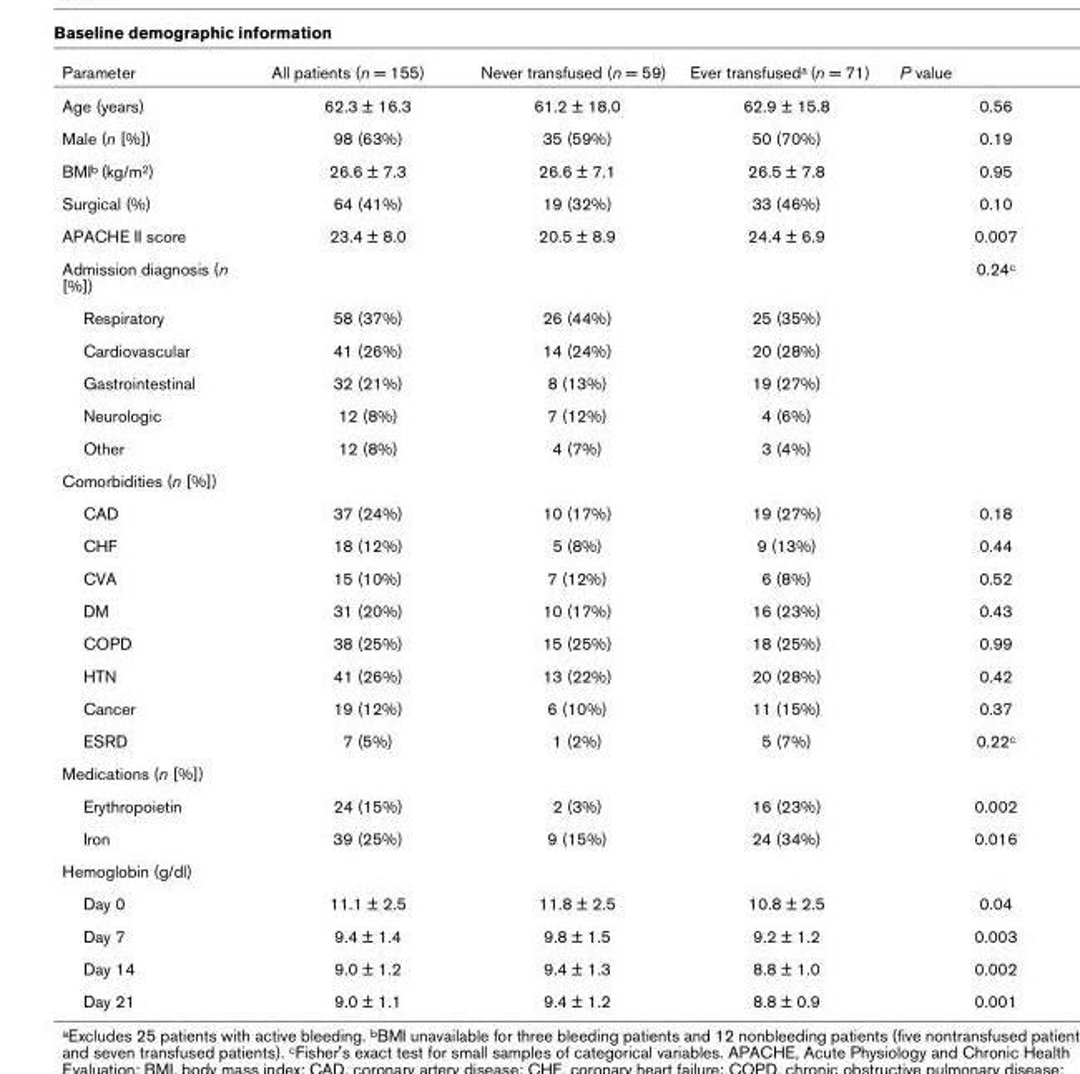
<table><thead><tr><td>Parameter</td><td>All patients (n = 155)</td><td>Never transfused (n = 59)</td><td>Ever transfuseda (n = 71)</td><td>P value</td></tr></thead><tbody><tr><td>Age (years)</td><td>62.3 ± 16.3</td><td>61.2 ± 18.0</td><td>62.9 ± 15.8</td><td>0.56</td></tr><tr><td>Male (n [%])</td><td>98 (63%)</td><td>35 (59%)</td><td>50 (70%)</td><td>0.19</td></tr><tr><td>BMIb (kg/m2)</td><td>26.6 ± 7.3</td><td>26.6 ± 7.1</td><td>26.5 ± 7.8</td><td>0.95</td></tr><tr><td>Surgical (%)</td><td>64 (41%)</td><td>19 (32%)</td><td>33 (46%)</td><td>0.10</td></tr><tr><td>APACHE II score</td><td>23.4 ± 8.0</td><td>20.5 ± 8.9</td><td>24.4 ± 6.9</td><td>0.007</td></tr><tr><td>Admission diagnosis (n [%])</td><td></td><td></td><td></td><td>0.24c</td></tr><tr><td>Respiratory</td><td>58 (37%)</td><td>26 (44%)</td><td>25 (35%)</td><td></td></tr><tr><td>Cardiovascular</td><td>41 (26%)</td><td>14 (24%)</td><td>20 (28%)</td><td></td></tr><tr><td>Gastrointestinal</td><td>32 (21%)</td><td>8 (13%)</td><td>19 (27%)</td><td></td></tr><tr><td>Neurologic</td><td>12 (8%)</td><td>7 (12%)</td><td>4 (6%)</td><td></td></tr><tr><td>Other</td><td>12 (8%)</td><td>4 (7%)</td><td>3 (4%)</td><td></td></tr><tr><td colspan="5">Comorbidities (n [%])</td></tr><tr><td>CAD</td><td>37 (24%)</td><td>10 (17%)</td><td>19 (27%)</td><td>0.18</td></tr><tr><td>CHF</td><td>18 (12%)</td><td>5 (8%)</td><td>9 (13%)</td><td>0.44</td></tr><tr><td>CVA</td><td>15 (10%)</td><td>7 (12%)</td><td>6 (8%)</td><td>0.52</td></tr><tr><td>DM</td><td>31 (20%)</td><td>10 (17%)</td><td>16 (23%)</td><td>0.43</td></tr><tr><td>COPD</td><td>38 (25%)</td><td>15 (25%)</td><td>18 (25%)</td><td>0.99</td></tr><tr><td>HTN</td><td>41 (26%)</td><td>13 (22%)</td><td>20 (28%)</td><td>0.42</td></tr><tr><td>Cancer</td><td>19 (12%)</td><td>6 (10%)</td><td>11 (15%)</td><td>0.37</td></tr><tr><td>ESRD</td><td>7 (5%)</td><td>1 (2%)</td><td>5 (7%)</td><td>0.22c</td></tr><tr><td colspan="5">Medications (n [%])</td></tr><tr><td>Erythropoietin</td><td>24 (15%)</td><td>2 (3%)</td><td>16 (23%)</td><td>0.002</td></tr><tr><td>Iron</td><td>39 (25%)</td><td>9 (15%)</td><td>24 (34%)</td><td>0.016</td></tr><tr><td colspan="5">Hemoglobin (g/dl)</td></tr><tr><td>Day 0</td><td>11.1 ± 2.5</td><td>11.8 ± 2.5</td><td>10.8 ± 2.5</td><td>0.04</td></tr><tr><td>Day 7</td><td>9.4 ± 1.4</td><td>9.8 ± 1.5</td><td>9.2 ± 1.2</td><td>0.003</td></tr><tr><td>Day 14</td><td>9.0 ± 1.2</td><td>9.4 ± 1.3</td><td>8.8 ± 1.0</td><td>0.002</td></tr><tr><td>Day 21</td><td>9.0 ± 1.1</td><td>9.4 ± 1.2</td><td>8.8 ± 0.9</td><td>0.001</td></tr></tbody></table>